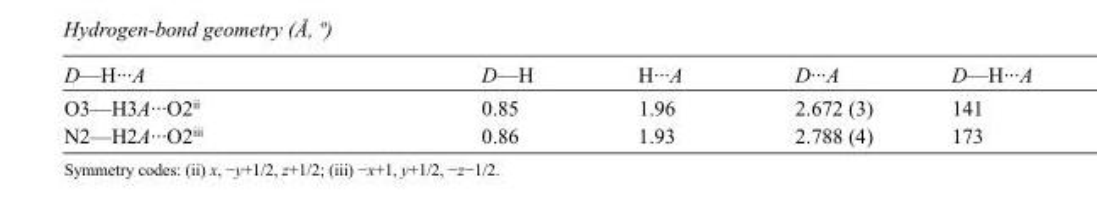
<table><tbody><tr><td>D—H···A</td><td>D—H</td><td>H···A</td><td>D···A</td><td>D—H···A</td></tr><tr><td>O3—H3A···O2<sup>ii</sup></td><td>0.85</td><td>1.96</td><td>2.672 (3)</td><td>141</td></tr><tr><td>N2—H2A···O2<sup>iii</sup></td><td>0.86</td><td>1.93</td><td>2.788 (4)</td><td>173</td></tr></tbody></table>